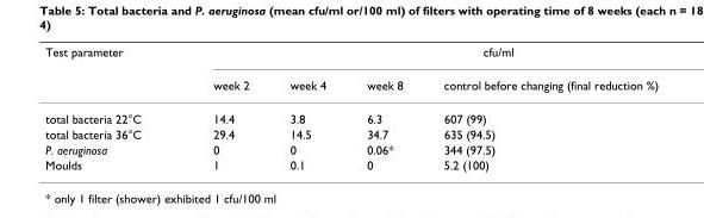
<table><thead><tr><td rowspan="2">Test parameter</td><td colspan="4">cfu/ml</td></tr><tr><td>week 2</td><td>week 4</td><td>week 8</td><td>control before changing (final reduction %)</td></tr></thead><tbody><tr><td>total bacteria 22°C</td><td>14.4</td><td>3.8</td><td>6.3</td><td>607 (99)</td></tr><tr><td>total bacteria 36°C</td><td>29.4</td><td>14.5</td><td>34.7</td><td>635 (94.5)</td></tr><tr><td>P. aeruginosa</td><td>0</td><td>0</td><td>0.06*</td><td>344 (97.5)</td></tr><tr><td>Moulds</td><td>1</td><td>0.1</td><td>0</td><td>5.2 (100)</td></tr></tbody></table>